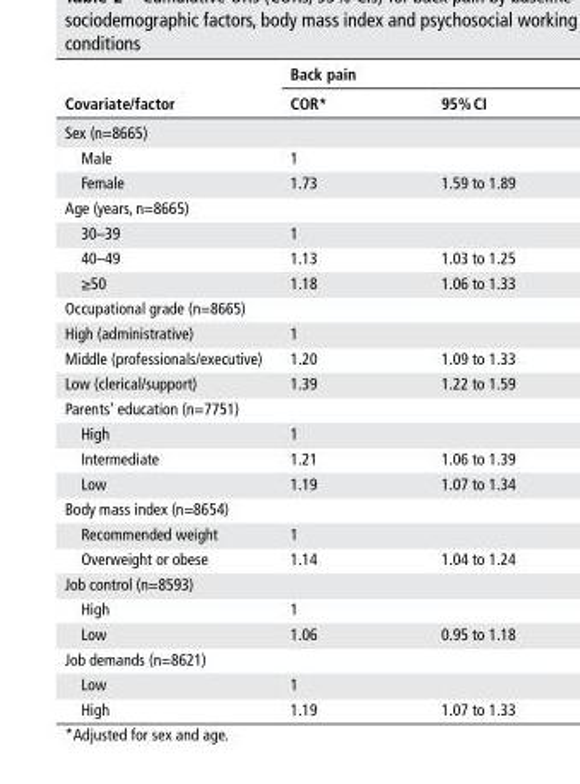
<table><thead><tr><td rowspan="2">Covariate/factor</td><td colspan="2">back pain</td></tr><tr><td>COr*</td><td>95% CI</td></tr></thead><tbody><tr><td colspan="3">Sex (n=8665)</td></tr><tr><td>Male</td><td>1</td><td></td></tr><tr><td>Female</td><td>1.73</td><td>1.59 to 1.89</td></tr><tr><td colspan="3">Age (years, n=8665)</td></tr><tr><td>30–39</td><td>1</td><td></td></tr><tr><td>40–49</td><td>1.13</td><td>1.03 to 1.25</td></tr><tr><td>≥50</td><td>1.18</td><td>1.06 to 1.33</td></tr><tr><td colspan="3">Occupational grade (n=8665)</td></tr><tr><td>High (administrative)</td><td>1</td><td></td></tr><tr><td>Middle (professionals/executive)</td><td>1.20</td><td>1.09 to 1.33</td></tr><tr><td>Low (clerical/support)</td><td>1.39</td><td>1.22 to 1.59</td></tr><tr><td colspan="3">Parents’ education (n=7751)</td></tr><tr><td>High</td><td>1</td><td></td></tr><tr><td>Intermediate</td><td>1.21</td><td>1.06 to 1.39</td></tr><tr><td>Low</td><td>1.19</td><td>1.07 to 1.34</td></tr><tr><td colspan="3">Body mass index (n=8654)</td></tr><tr><td>Recommended weight</td><td>1</td><td></td></tr><tr><td>Overweight or obese</td><td>1.14</td><td>1.04 to 1.24</td></tr><tr><td colspan="3">Job control (n=8593)</td></tr><tr><td>High</td><td>1</td><td></td></tr><tr><td>Low</td><td>1.06</td><td>0.95 to 1.18</td></tr><tr><td colspan="3">Job demands (n=8621)</td></tr><tr><td>Low</td><td>1</td><td></td></tr><tr><td>High</td><td>1.19</td><td>1.07 to 1.33</td></tr></tbody></table>